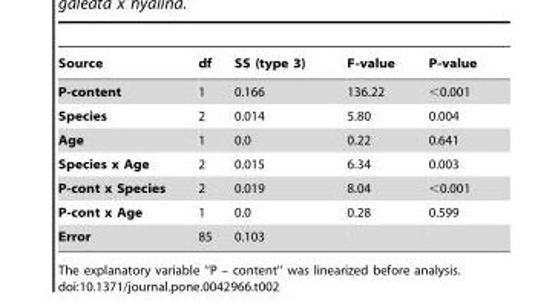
<table><thead><tr><td>Source</td><td>df</td><td>SS (type 3)</td><td>F-value</td><td>P-value</td></tr></thead><tbody><tr><td>P-content</td><td>1</td><td>0.166</td><td>136.22</td><td>&lt;0.001</td></tr><tr><td>Species</td><td>2</td><td>0.014</td><td>5.80</td><td>0.004</td></tr><tr><td>Age</td><td>1</td><td>0.0</td><td>0.22</td><td>0.641</td></tr><tr><td>Species x Age</td><td>2</td><td>0.015</td><td>6.34</td><td>0.003</td></tr><tr><td>P-cont x Species</td><td>2</td><td>0.019</td><td>8.04</td><td>&lt;0.001</td></tr><tr><td>P-cont x Age</td><td>1</td><td>0.0</td><td>0.28</td><td>0.599</td></tr><tr><td>Error</td><td>85</td><td>0.103</td><td></td><td></td></tr></tbody></table>